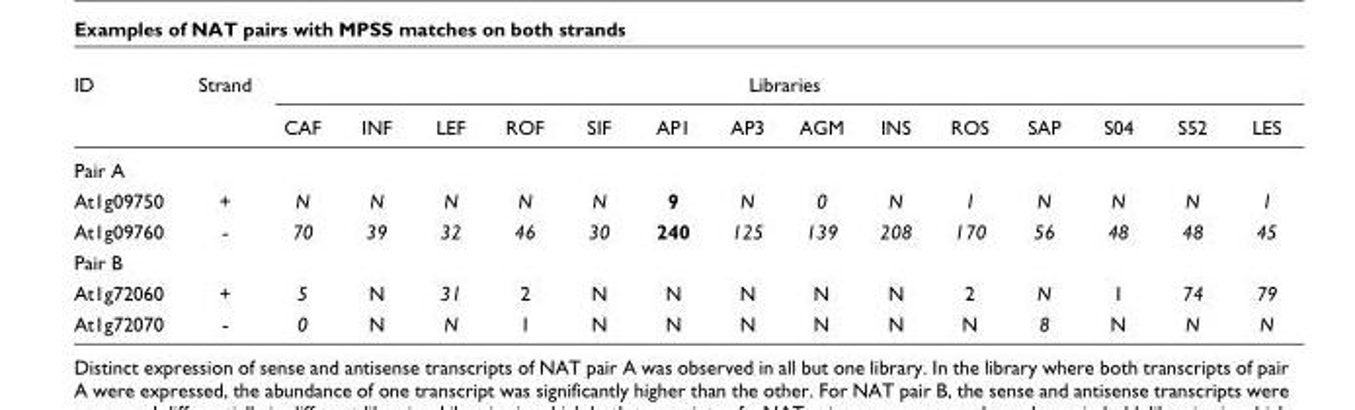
<table><thead><tr><td rowspan="2">ID</td><td rowspan="2">Strand</td><td colspan="14">Libraries</td></tr><tr><td>CAF</td><td>INF</td><td>LEF</td><td>ROF</td><td>SIF</td><td>AP1</td><td>AP3</td><td>AGM</td><td>INS</td><td>ROS</td><td>SAP</td><td>S04</td><td>S52</td><td>LES</td></tr></thead><tbody><tr><td colspan="16">Pair A</td></tr><tr><td>At1g09750</td><td>+</td><td>N</td><td>N</td><td>N</td><td>N</td><td>N</td><td>9</td><td>N</td><td>0</td><td>N</td><td>1</td><td>N</td><td>N</td><td>N</td><td>1</td></tr><tr><td>At1g09760</td><td>-</td><td>70</td><td>39</td><td>32</td><td>46</td><td>30</td><td>240</td><td>125</td><td>139</td><td>208</td><td>170</td><td>56</td><td>48</td><td>48</td><td>45</td></tr><tr><td colspan="16">Pair B</td></tr><tr><td>At1g72060</td><td>+</td><td>5</td><td>N</td><td>31</td><td>2</td><td>N</td><td>N</td><td>N</td><td>N</td><td>N</td><td>2</td><td>N</td><td>1</td><td>74</td><td>79</td></tr><tr><td>At1g72070</td><td>-</td><td>0</td><td>N</td><td>N</td><td>1</td><td>N</td><td>N</td><td>N</td><td>N</td><td>N</td><td>N</td><td>8</td><td>N</td><td>N</td><td>N</td></tr></tbody></table>